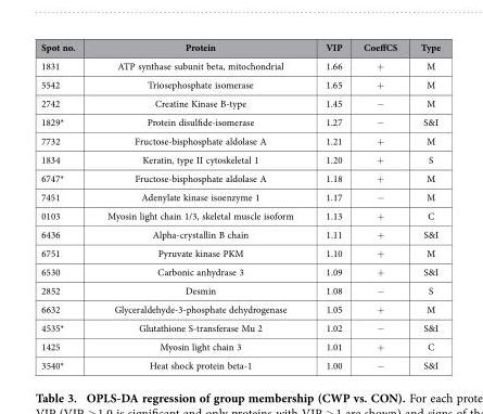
<table><thead><tr><td>Spot no.</td><td>Protein</td><td>VIP</td><td>CoeffCS</td><td>Type</td></tr></thead><tbody><tr><td>1831</td><td>ATP synthase subunit beta, mitochondrial</td><td>1.66</td><td>+</td><td>M</td></tr><tr><td>5542</td><td>Triosephosphate isomerase</td><td>1.65</td><td>+</td><td>M</td></tr><tr><td>2742</td><td>Creatine Kinase B-type</td><td>1.45</td><td>−</td><td>M</td></tr><tr><td>1829*</td><td>Protein disulfide-isomerase</td><td>1.27</td><td>−</td><td>S&amp;I</td></tr><tr><td>7732</td><td>Fructose-bisphosphate aldolase A</td><td>1.21</td><td>+</td><td>M</td></tr><tr><td>1834</td><td>Keratin, type II cytoskeletal 1</td><td>1.20</td><td>+</td><td>S</td></tr><tr><td>6747*</td><td>Fructose-bisphosphate aldolase A</td><td>1.18</td><td>+</td><td>M</td></tr><tr><td>7451</td><td>Adenylate kinase isoenzyme 1</td><td>1.17</td><td>−</td><td>M</td></tr><tr><td>0103</td><td>Myosin light chain 1/3, skeletal muscle isoform</td><td>1.13</td><td>+</td><td>C</td></tr><tr><td>6436</td><td>Alpha-crystallin B chain</td><td>1.11</td><td>+</td><td>S&amp;I</td></tr><tr><td>6751</td><td>Pyruvate kinase PKM</td><td>1.10</td><td>+</td><td>M</td></tr><tr><td>6530</td><td>Carbonic anhydrase 3</td><td>1.09</td><td>+</td><td>S&amp;I</td></tr><tr><td>2852</td><td>Desmin</td><td>1.08</td><td>−</td><td>S</td></tr><tr><td>6632</td><td>Glyceraldehyde-3-phosphate dehydrogenase</td><td>1.05</td><td>+</td><td>M</td></tr><tr><td>4535*</td><td>Glutathione S-transferase Mu 2</td><td>1.02</td><td>−</td><td>S&amp;I</td></tr><tr><td>1425</td><td>Myosin light chain 3</td><td>1.01</td><td>+</td><td>C</td></tr><tr><td>3540*</td><td>Heat shock protein beta-1</td><td>1.00</td><td>−</td><td>S&amp;I</td></tr></tbody></table>